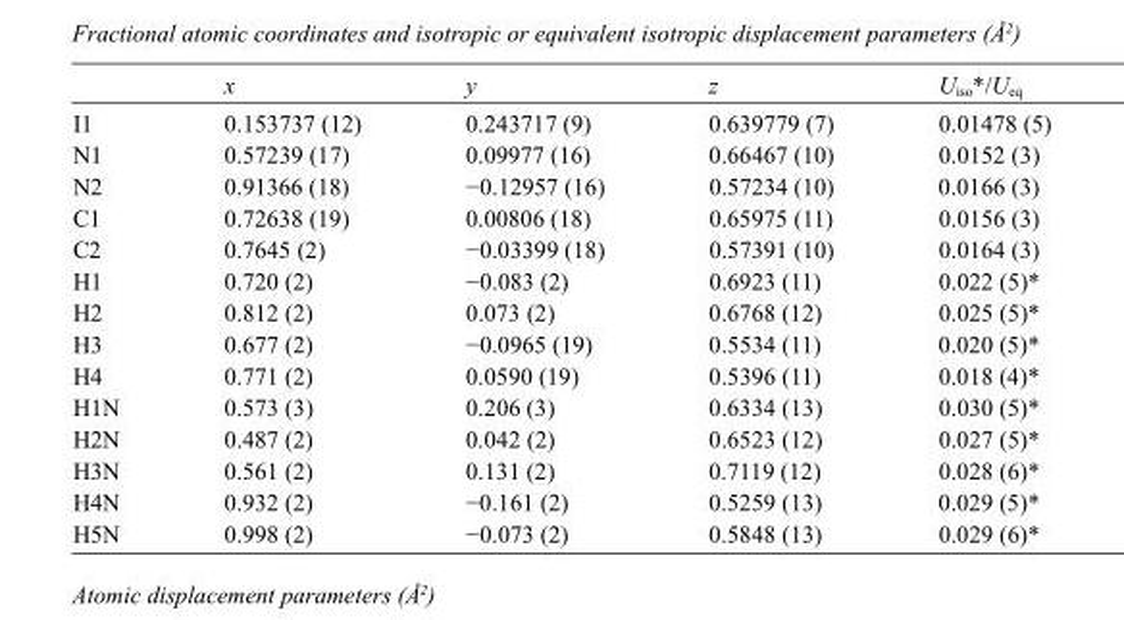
<table><thead><tr><td></td><td>x</td><td>y</td><td>z</td><td>U<sub>iso</sub>*/U<sub>eq</sub></td></tr></thead><tbody><tr><td>I1</td><td>0.153737 (12)</td><td>0.243717 (9)</td><td>0.639779 (7)</td><td>0.01478 (5)</td></tr><tr><td>N1</td><td>0.57239 (17)</td><td>0.09977 (16)</td><td>0.66467 (10)</td><td>0.0152 (3)</td></tr><tr><td>N2</td><td>0.91366 (18)</td><td>−0.12957 (16)</td><td>0.57234 (10)</td><td>0.0166 (3)</td></tr><tr><td>C1</td><td>0.72638 (19)</td><td>0.00806 (18)</td><td>0.65975 (11)</td><td>0.0156 (3)</td></tr><tr><td>C2</td><td>0.7645 (2)</td><td>−0.03399 (18)</td><td>0.57391 (10)</td><td>0.0164 (3)</td></tr><tr><td>H1</td><td>0.720 (2)</td><td>−0.083 (2)</td><td>0.6923 (11)</td><td>0.022 (5)*</td></tr><tr><td>H2</td><td>0.812 (2)</td><td>0.073 (2)</td><td>0.6768 (12)</td><td>0.025 (5)*</td></tr><tr><td>H3</td><td>0.677 (2)</td><td>−0.0965 (19)</td><td>0.5534 (11)</td><td>0.020 (5)*</td></tr><tr><td>H4</td><td>0.771 (2)</td><td>0.0590 (19)</td><td>0.5396 (11)</td><td>0.018 (4)*</td></tr><tr><td>H1N</td><td>0.573 (3)</td><td>0.206 (3)</td><td>0.6334 (13)</td><td>0.030 (5)*</td></tr><tr><td>H2N</td><td>0.487 (2)</td><td>0.042 (2)</td><td>0.6523 (12)</td><td>0.027 (5)*</td></tr><tr><td>H3N</td><td>0.561 (2)</td><td>0.131 (2)</td><td>0.7119 (12)</td><td>0.028 (6)*</td></tr><tr><td>H4N</td><td>0.932 (2)</td><td>−0.161 (2)</td><td>0.5259 (13)</td><td>0.029 (5)*</td></tr><tr><td>H5N</td><td>0.998 (2)</td><td>−0.073 (2)</td><td>0.5848 (13)</td><td>0.029 (6)*</td></tr></tbody></table>